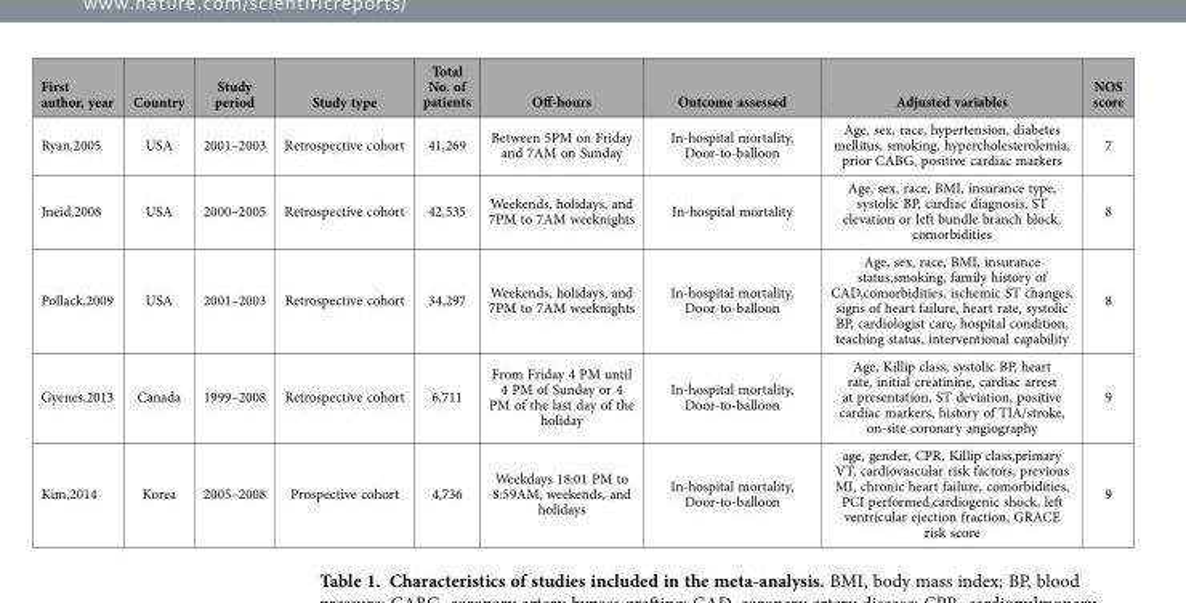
<table><thead><tr><td>First author, year</td><td>Country</td><td>Study period</td><td>Study type</td><td>Total No. of patients</td><td>Off-hours</td><td>Outcome assessed</td><td>Adjusted variables</td><td>NOS score</td></tr></thead><tbody><tr><td>Ryan,2005</td><td>USA</td><td>2001–2003</td><td>Retrospective cohort</td><td>41,269</td><td>Between 5PM on Friday and 7AM on Sunday</td><td>In-hospital mortality, Door-to-balloon</td><td>Age, sex, race, hypertension, diabetes mellitus, smoking, hypercholesterolemia, prior CABG, positive cardiac markers</td><td>7</td></tr><tr><td>Jneid,2008</td><td>USA</td><td>2000–2005</td><td>Retrospective cohort</td><td>42,535</td><td>Weekends, holidays, and 7PM to 7AM weeknights</td><td>In-hospital mortality</td><td>Age, sex, race, BMI, insurance type, systolic BP, cardiac diagnosis, ST elevation or left bundle branch block, comorbidities</td><td>8</td></tr><tr><td>Pollack,2009</td><td>USA</td><td>2001–2003</td><td>Retrospective cohort</td><td>34,297</td><td>Weekends, holidays, and 7PM to 7AM weeknights</td><td>In-hospital mortality, Door-to-balloon</td><td>Age, sex, race, BMI, insurance status,smoking, family history of CAD,comorbidities, ischemic ST changes, signs of heart failure, heart rate, systolic BP, cardiologist care, hospital condition, teaching status, interventional capability</td><td>8</td></tr><tr><td>Gyenes,2013</td><td>Canada</td><td>1999–2008</td><td>Retrospective cohort</td><td>6,711</td><td>From Friday 4 PM until 4 PM of Sunday or 4 PM of the last day of the holiday</td><td>In-hospital mortality, Door-to-balloon</td><td>Age, Killip class, systolic BP, heart rate, initial creatinine, cardiac arrest at presentation, ST deviation, positive cardiac markers, history of TIA/stroke, on-site coronary angiography</td><td>9</td></tr><tr><td>Kim,2014</td><td>Korea</td><td>2005–2008</td><td>Prospective cohort</td><td>4,736</td><td>Weekdays 18:01 PM to 8:59AM, weekends, and holidays</td><td>In-hospital mortality, Door-to-balloon</td><td>age, gender, CPR, Killip class,primary VT, cardiovascular risk factors, previous MI, chronic heart failure, comorbidities, PCI performed,cardiogenic shock, left ventricular ejection fraction, GRACE risk score</td><td>9</td></tr></tbody></table>